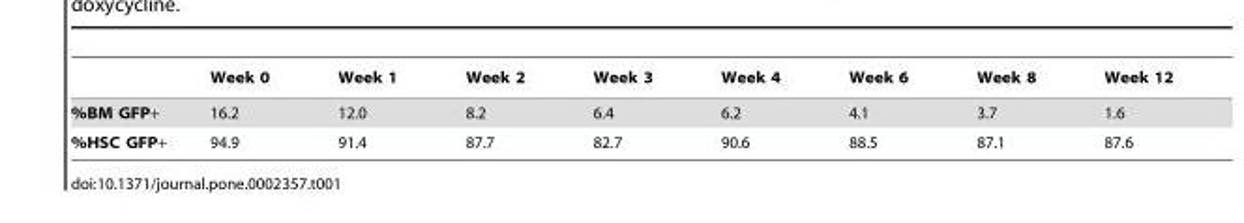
<table><thead><tr><td></td><td>Week 0</td><td>Week 1</td><td>Week 2</td><td>Week 3</td><td>Week 4</td><td>Week 6</td><td>Week 8</td><td>Week 12</td></tr></thead><tbody><tr><td>%BM GFP+</td><td>16.2</td><td>12.0</td><td>8.2</td><td>6.4</td><td>6.2</td><td>4.1</td><td>3.7</td><td>1.6</td></tr><tr><td>%HSC GFP+</td><td>94.9</td><td>91.4</td><td>87.7</td><td>82.7</td><td>90.6</td><td>88.5</td><td>87.1</td><td>87.6</td></tr></tbody></table>